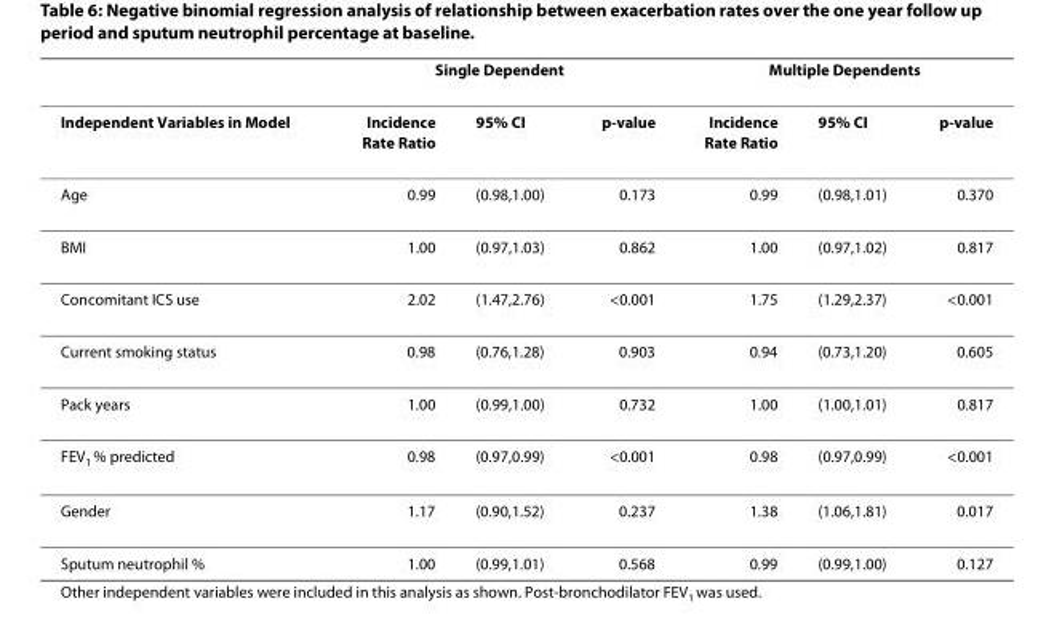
<table><thead><tr><td rowspan="2">Independent Variables in Model</td><td colspan="3">Single Dependent</td><td colspan="3">Multiple Dependents</td></tr><tr><td>Incidence Rate Ratio</td><td>95% CI</td><td>p-value</td><td>Incidence Rate Ratio</td><td>95% CI</td><td>p-value</td></tr></thead><tbody><tr><td>Age</td><td>0.99</td><td>(0.98,1.00)</td><td>0.173</td><td>0.99</td><td>(0.98,1.01)</td><td>0.370</td></tr><tr><td>BMI</td><td>1.00</td><td>(0.97,1.03)</td><td>0.862</td><td>1.00</td><td>(0.97,1.02)</td><td>0.817</td></tr><tr><td>Concomitant ICS use</td><td>2.02</td><td>(1.47,2.76)</td><td>&lt;0.001</td><td>1.75</td><td>(1.29,2.37)</td><td>&lt;0.001</td></tr><tr><td>Current smoking status</td><td>0.98</td><td>(0.76,1.28)</td><td>0.903</td><td>0.94</td><td>(0.73,1.20)</td><td>0.605</td></tr><tr><td>Pack years</td><td>1.00</td><td>(0.99,1.00)</td><td>0.732</td><td>1.00</td><td>(1.00,1.01)</td><td>0.817</td></tr><tr><td>FEV<sub>1</sub> % predicted</td><td>0.98</td><td>(0.97,0.99)</td><td>&lt;0.001</td><td>0.98</td><td>(0.97,0.99)</td><td>&lt;0.001</td></tr><tr><td>Gender</td><td>1.17</td><td>(0.90,1.52)</td><td>0.237</td><td>1.38</td><td>(1.06,1.81)</td><td>0.017</td></tr><tr><td>Sputum neutrophil %</td><td>1.00</td><td>(0.99,1.01)</td><td>0.568</td><td>0.99</td><td>(0.99,1.00)</td><td>0.127</td></tr></tbody></table>